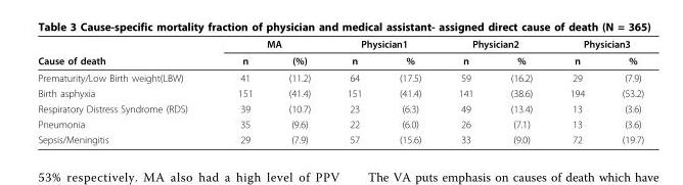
<table><thead><tr><td rowspan="2">Cause of death</td><td colspan="2">MA</td><td colspan="2">Physician1</td><td colspan="2">Physician2</td><td colspan="2">Physician3</td></tr><tr><td>n</td><td>(%)</td><td>n</td><td>%</td><td>n</td><td>%</td><td>n</td><td>%</td></tr></thead><tbody><tr><td>Prematurity/Low Birth weight(LBW)</td><td>41</td><td>(11.2)</td><td>64</td><td>(17.5)</td><td>59</td><td>(16.2)</td><td>29</td><td>(7.9)</td></tr><tr><td>Birth asphyxia</td><td>151</td><td>(41.4)</td><td>151</td><td>(41.4)</td><td>141</td><td>(38.6)</td><td>194</td><td>(53.2)</td></tr><tr><td>Respiratory Distress Syndrome (RDS)</td><td>39</td><td>(10.7)</td><td>23</td><td>(6.3)</td><td>49</td><td>(13.4)</td><td>13</td><td>(3.6)</td></tr><tr><td>Pneumonia</td><td>35</td><td>(9.6)</td><td>22</td><td>(6.0)</td><td>26</td><td>(7.1)</td><td>13</td><td>(3.6)</td></tr><tr><td>Sepsis/Meningitis</td><td>29</td><td>(7.9)</td><td>57</td><td>(15.6)</td><td>33</td><td>(9.0)</td><td>72</td><td>(19.7)</td></tr></tbody></table>